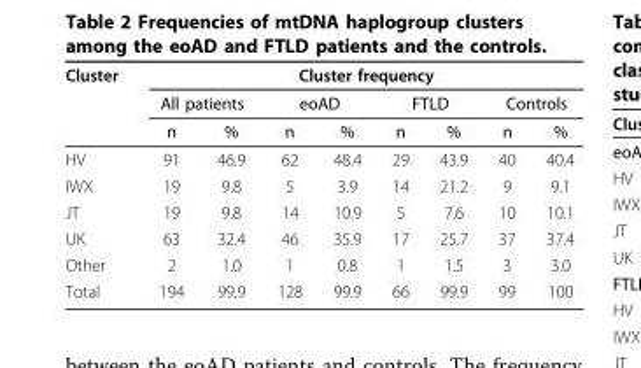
<table><thead><tr><td rowspan="3">Cluster</td><td colspan="8">Cluster frequency</td></tr><tr><td colspan="2">All patients</td><td colspan="2">eoAD</td><td colspan="2">FTLD</td><td colspan="2">Controls</td></tr><tr><td>n</td><td>%</td><td>n</td><td>%</td><td>n</td><td>%</td><td>n</td><td>%</td></tr></thead><tbody><tr><td>HV</td><td>91</td><td>46.9</td><td>62</td><td>48.4</td><td>29</td><td>43.9</td><td>40</td><td>40.4</td></tr><tr><td>IWX</td><td>19</td><td>9.8</td><td>5</td><td>3.9</td><td>14</td><td>21.2</td><td>9</td><td>9.1</td></tr><tr><td>JT</td><td>19</td><td>9.8</td><td>14</td><td>10.9</td><td>5</td><td>7.6</td><td>10</td><td>10.1</td></tr><tr><td>UK</td><td>63</td><td>32.4</td><td>46</td><td>35.9</td><td>17</td><td>25.7</td><td>37</td><td>37.4</td></tr><tr><td>Other</td><td>2</td><td>1.0</td><td>1</td><td>0.8</td><td>1</td><td>1.5</td><td>3</td><td>3.0</td></tr><tr><td>Total</td><td>194</td><td>99.9</td><td>128</td><td>99.9</td><td>66</td><td>99.9</td><td>99</td><td>100</td></tr></tbody></table>